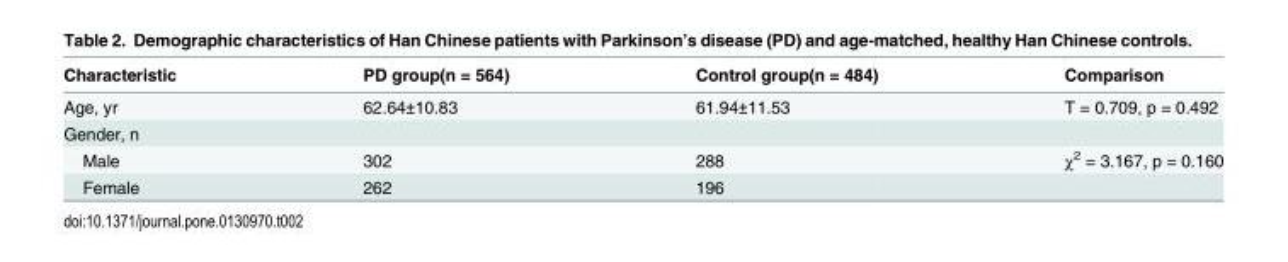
<table><thead><tr><td>Characteristic</td><td>PD group(n = 564)</td><td>Control group(n = 484)</td><td>Comparison</td></tr></thead><tbody><tr><td>Age, yr</td><td>62.64±10.83</td><td>61.94±11.53</td><td>T = 0.709, p = 0.492</td></tr><tr><td colspan="4">Gender, n</td></tr><tr><td>Male</td><td>302</td><td>288</td><td>χ<sup>2</sup> = 3.167, p = 0.160</td></tr><tr><td>Female</td><td>262</td><td>196</td><td></td></tr></tbody></table>